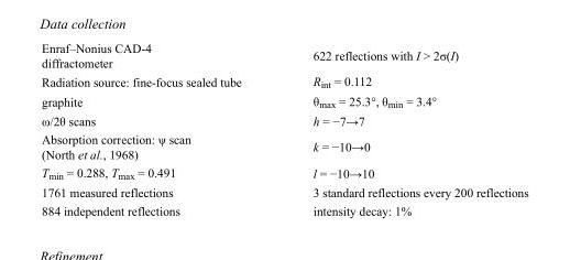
<table><tbody><tr><td>Enraf–Nonius CAD-4 diffractometer</td><td>622 reflections with I &gt; 2σ(I)</td></tr><tr><td>Radiation source: fine-focus sealed tube</td><td>R<sub>int</sub> = 0.112</td></tr><tr><td>graphite</td><td>θ<sub>max</sub> = 25.3°, θ<sub>min</sub> = 3.4°</td></tr><tr><td>ω/2θ scans</td><td>h = −7→7</td></tr><tr><td>Absorption correction: ψ scan (North et al., 1968)</td><td>k = −10→0</td></tr><tr><td>T<sub>min</sub> = 0.288, T<sub>max</sub> = 0.491</td><td>l = −10→10</td></tr><tr><td>1761 measured reflections</td><td>3 standard reflections every 200 reflections</td></tr><tr><td>884 independent reflections</td><td>intensity decay: 1%</td></tr></tbody></table>